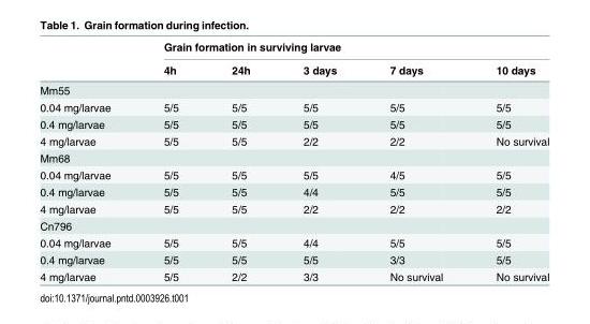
<table><thead><tr><td rowspan="2"></td><td colspan="5">Grain formation in surviving larvae</td></tr><tr><td>4h</td><td>24h</td><td>3 days</td><td>7 days</td><td>10 days</td></tr></thead><tbody><tr><td colspan="6">Mm55</td></tr><tr><td>0.04 mg/larvae</td><td>5/5</td><td>5/5</td><td>5/5</td><td>5/5</td><td>5/5</td></tr><tr><td>0.4 mg/larvae</td><td>5/5</td><td>5/5</td><td>5/5</td><td>5/5</td><td>5/5</td></tr><tr><td>4 mg/larvae</td><td>5/5</td><td>5/5</td><td>2/2</td><td>2/2</td><td>No survival</td></tr><tr><td colspan="6">Mm68</td></tr><tr><td>0.04 mg/larvae</td><td>5/5</td><td>5/5</td><td>5/5</td><td>4/5</td><td>5/5</td></tr><tr><td>0.4 mg/larvae</td><td>5/5</td><td>5/5</td><td>4/4</td><td>5/5</td><td>5/5</td></tr><tr><td>4 mg/larvae</td><td>5/5</td><td>5/5</td><td>2/2</td><td>2/2</td><td>2/2</td></tr><tr><td colspan="6">Cn796</td></tr><tr><td>0.04 mg/larvae</td><td>5/5</td><td>5/5</td><td>4/4</td><td>5/5</td><td>5/5</td></tr><tr><td>0.4 mg/larvae</td><td>5/5</td><td>5/5</td><td>5/5</td><td>3/3</td><td>5/5</td></tr><tr><td>4 mg/larvae</td><td>5/5</td><td>2/2</td><td>3/3</td><td>No survival</td><td>No survival</td></tr></tbody></table>